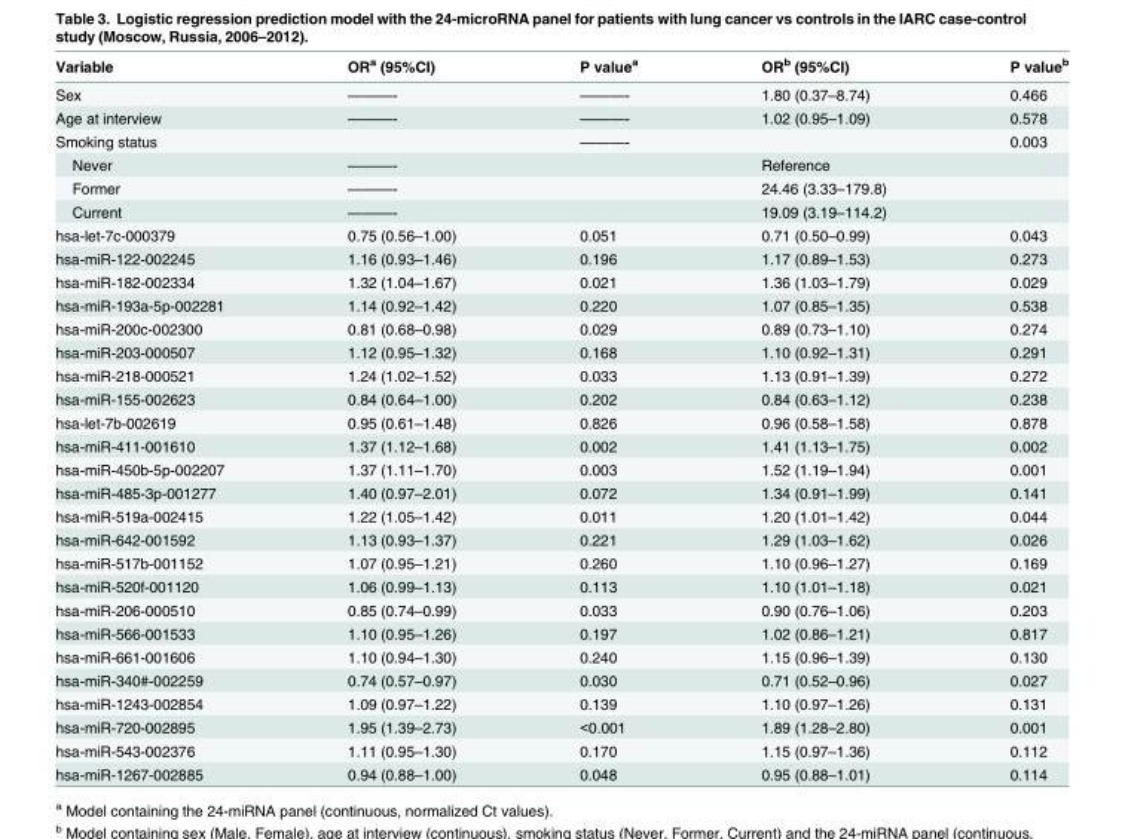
<table><thead><tr><td>Variable</td><td>OR<sup>a</sup> (95%CI)</td><td>P value<sup>a</sup></td><td>OR<sup>b</sup> (95%CI)</td><td>P value<sup>b</sup></td></tr></thead><tbody><tr><td>Sex</td><td>———-</td><td>———-</td><td>1.80 (0.37–8.74)</td><td>0.466</td></tr><tr><td>Age at interview</td><td>———-</td><td>———-</td><td>1.02 (0.95–1.09)</td><td>0.578</td></tr><tr><td>Smoking status</td><td></td><td>———-</td><td></td><td>0.003</td></tr><tr><td>Never</td><td>———-</td><td></td><td>Reference</td><td></td></tr><tr><td>Former</td><td>———-</td><td></td><td>24.46 (3.33–179.8)</td><td></td></tr><tr><td>Current</td><td>———-</td><td></td><td>19.09 (3.19–114.2)</td><td></td></tr><tr><td>hsa-let-7c-000379</td><td>0.75 (0.56–1.00)</td><td>0.051</td><td>0.71 (0.50–0.99)</td><td>0.043</td></tr><tr><td>hsa-miR-122-002245</td><td>1.16 (0.93–1.46)</td><td>0.196</td><td>1.17 (0.89–1.53)</td><td>0.273</td></tr><tr><td>hsa-miR-182-002334</td><td>1.32 (1.04–1.67)</td><td>0.021</td><td>1.36 (1.03–1.79)</td><td>0.029</td></tr><tr><td>hsa-miR-193a-5p-002281</td><td>1.14 (0.92–1.42)</td><td>0.220</td><td>1.07 (0.85–1.35)</td><td>0.538</td></tr><tr><td>hsa-miR-200c-002300</td><td>0.81 (0.68–0.98)</td><td>0.029</td><td>0.89 (0.73–1.10)</td><td>0.274</td></tr><tr><td>hsa-miR-203-000507</td><td>1.12 (0.95–1.32)</td><td>0.168</td><td>1.10 (0.92–1.31)</td><td>0.291</td></tr><tr><td>hsa-miR-218-000521</td><td>1.24 (1.02–1.52)</td><td>0.033</td><td>1.13 (0.91–1.39)</td><td>0.272</td></tr><tr><td>hsa-miR-155-002623</td><td>0.84 (0.64–1.00)</td><td>0.202</td><td>0.84 (0.63–1.12)</td><td>0.238</td></tr><tr><td>hsa-let-7b-002619</td><td>0.95 (0.61–1.48)</td><td>0.826</td><td>0.96 (0.58–1.58)</td><td>0.878</td></tr><tr><td>hsa-miR-411-001610</td><td>1.37 (1.12–1.68)</td><td>0.002</td><td>1.41 (1.13–1.75)</td><td>0.002</td></tr><tr><td>hsa-miR-450b-5p-002207</td><td>1.37 (1.11–1.70)</td><td>0.003</td><td>1.52 (1.19–1.94)</td><td>0.001</td></tr><tr><td>hsa-miR-485-3p-001277</td><td>1.40 (0.97–2.01)</td><td>0.072</td><td>1.34 (0.91–1.99)</td><td>0.141</td></tr><tr><td>hsa-miR-519a-002415</td><td>1.22 (1.05–1.42)</td><td>0.011</td><td>1.20 (1.01–1.42)</td><td>0.044</td></tr><tr><td>hsa-miR-642-001592</td><td>1.13 (0.93–1.37)</td><td>0.221</td><td>1.29 (1.03–1.62)</td><td>0.026</td></tr><tr><td>hsa-miR-517b-001152</td><td>1.07 (0.95–1.21)</td><td>0.260</td><td>1.10 (0.96–1.27)</td><td>0.169</td></tr><tr><td>hsa-miR-520f-001120</td><td>1.06 (0.99–1.13)</td><td>0.113</td><td>1.10 (1.01–1.18)</td><td>0.021</td></tr><tr><td>hsa-miR-206-000510</td><td>0.85 (0.74–0.99)</td><td>0.033</td><td>0.90 (0.76–1.06)</td><td>0.203</td></tr><tr><td>hsa-miR-566-001533</td><td>1.10 (0.95–1.26)</td><td>0.197</td><td>1.02 (0.86–1.21)</td><td>0.817</td></tr><tr><td>hsa-miR-661-001606</td><td>1.10 (0.94–1.30)</td><td>0.240</td><td>1.15 (0.96–1.39)</td><td>0.130</td></tr><tr><td>hsa-miR-340#-002259</td><td>0.74 (0.57–0.97)</td><td>0.030</td><td>0.71 (0.52–0.96)</td><td>0.027</td></tr><tr><td>hsa-miR-1243-002854</td><td>1.09 (0.97–1.22)</td><td>0.139</td><td>1.10 (0.97–1.26)</td><td>0.131</td></tr><tr><td>hsa-miR-720-002895</td><td>1.95 (1.39–2.73)</td><td>&lt;0.001</td><td>1.89 (1.28–2.80)</td><td>0.001</td></tr><tr><td>hsa-miR-543-002376</td><td>1.11 (0.95–1.30)</td><td>0.170</td><td>1.15 (0.97–1.36)</td><td>0.112</td></tr><tr><td>hsa-miR-1267-002885</td><td>0.94 (0.88–1.00)</td><td>0.048</td><td>0.95 (0.88–1.01)</td><td>0.114</td></tr></tbody></table>